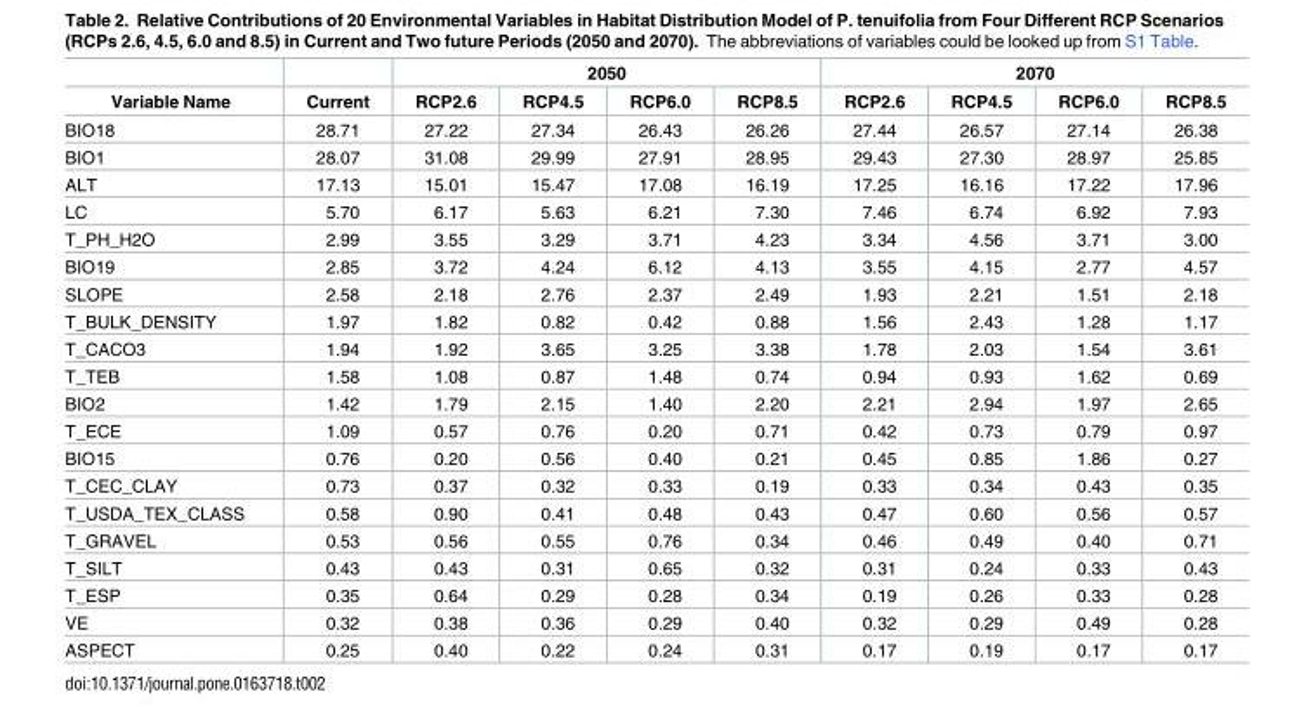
<table><thead><tr><td rowspan="2">Variable Name</td><td rowspan="2">Current</td><td colspan="4">2050</td><td colspan="4">2070</td></tr><tr><td>RCP2.6</td><td>RCP4.5</td><td>RCP6.0</td><td>RCP8.5</td><td>RCP2.6</td><td>RCP4.5</td><td>RCP6.0</td><td>RCP8.5</td></tr></thead><tbody><tr><td>BIO18</td><td>28.71</td><td>27.22</td><td>27.34</td><td>26.43</td><td>26.26</td><td>27.44</td><td>26.57</td><td>27.14</td><td>26.38</td></tr><tr><td>BIO1</td><td>28.07</td><td>31.08</td><td>29.99</td><td>27.91</td><td>28.95</td><td>29.43</td><td>27.30</td><td>28.97</td><td>25.85</td></tr><tr><td>ALT</td><td>17.13</td><td>15.01</td><td>15.47</td><td>17.08</td><td>16.19</td><td>17.25</td><td>16.16</td><td>17.22</td><td>17.96</td></tr><tr><td>LC</td><td>5.70</td><td>6.17</td><td>5.63</td><td>6.21</td><td>7.30</td><td>7.46</td><td>6.74</td><td>6.92</td><td>7.93</td></tr><tr><td>T_PH_H2O</td><td>2.99</td><td>3.55</td><td>3.29</td><td>3.71</td><td>4.23</td><td>3.34</td><td>4.56</td><td>3.71</td><td>3.00</td></tr><tr><td>BIO19</td><td>2.85</td><td>3.72</td><td>4.24</td><td>6.12</td><td>4.13</td><td>3.55</td><td>4.15</td><td>2.77</td><td>4.57</td></tr><tr><td>SLOPE</td><td>2.58</td><td>2.18</td><td>2.76</td><td>2.37</td><td>2.49</td><td>1.93</td><td>2.21</td><td>1.51</td><td>2.18</td></tr><tr><td>T_BULK_DENSITY</td><td>1.97</td><td>1.82</td><td>0.82</td><td>0.42</td><td>0.88</td><td>1.56</td><td>2.43</td><td>1.28</td><td>1.17</td></tr><tr><td>T_CACO3</td><td>1.94</td><td>1.92</td><td>3.65</td><td>3.25</td><td>3.38</td><td>1.78</td><td>2.03</td><td>1.54</td><td>3.61</td></tr><tr><td>T_TEB</td><td>1.58</td><td>1.08</td><td>0.87</td><td>1.48</td><td>0.74</td><td>0.94</td><td>0.93</td><td>1.62</td><td>0.69</td></tr><tr><td>BIO2</td><td>1.42</td><td>1.79</td><td>2.15</td><td>1.40</td><td>2.20</td><td>2.21</td><td>2.94</td><td>1.97</td><td>2.65</td></tr><tr><td>T_ECE</td><td>1.09</td><td>0.57</td><td>0.76</td><td>0.20</td><td>0.71</td><td>0.42</td><td>0.73</td><td>0.79</td><td>0.97</td></tr><tr><td>BIO15</td><td>0.76</td><td>0.20</td><td>0.56</td><td>0.40</td><td>0.21</td><td>0.45</td><td>0.85</td><td>1.86</td><td>0.27</td></tr><tr><td>T_CEC_CLAY</td><td>0.73</td><td>0.37</td><td>0.32</td><td>0.33</td><td>0.19</td><td>0.33</td><td>0.34</td><td>0.43</td><td>0.35</td></tr><tr><td>T_USDA_TEX_CLASS</td><td>0.58</td><td>0.90</td><td>0.41</td><td>0.48</td><td>0.43</td><td>0.47</td><td>0.60</td><td>0.56</td><td>0.57</td></tr><tr><td>T_GRAVEL</td><td>0.53</td><td>0.56</td><td>0.55</td><td>0.76</td><td>0.34</td><td>0.46</td><td>0.49</td><td>0.40</td><td>0.71</td></tr><tr><td>T_SILT</td><td>0.43</td><td>0.43</td><td>0.31</td><td>0.65</td><td>0.32</td><td>0.31</td><td>0.24</td><td>0.33</td><td>0.43</td></tr><tr><td>T_ESP</td><td>0.35</td><td>0.64</td><td>0.29</td><td>0.28</td><td>0.34</td><td>0.19</td><td>0.26</td><td>0.33</td><td>0.28</td></tr><tr><td>VE</td><td>0.32</td><td>0.38</td><td>0.36</td><td>0.29</td><td>0.40</td><td>0.32</td><td>0.29</td><td>0.49</td><td>0.28</td></tr><tr><td>ASPECT</td><td>0.25</td><td>0.40</td><td>0.22</td><td>0.24</td><td>0.31</td><td>0.17</td><td>0.19</td><td>0.17</td><td>0.17</td></tr></tbody></table>